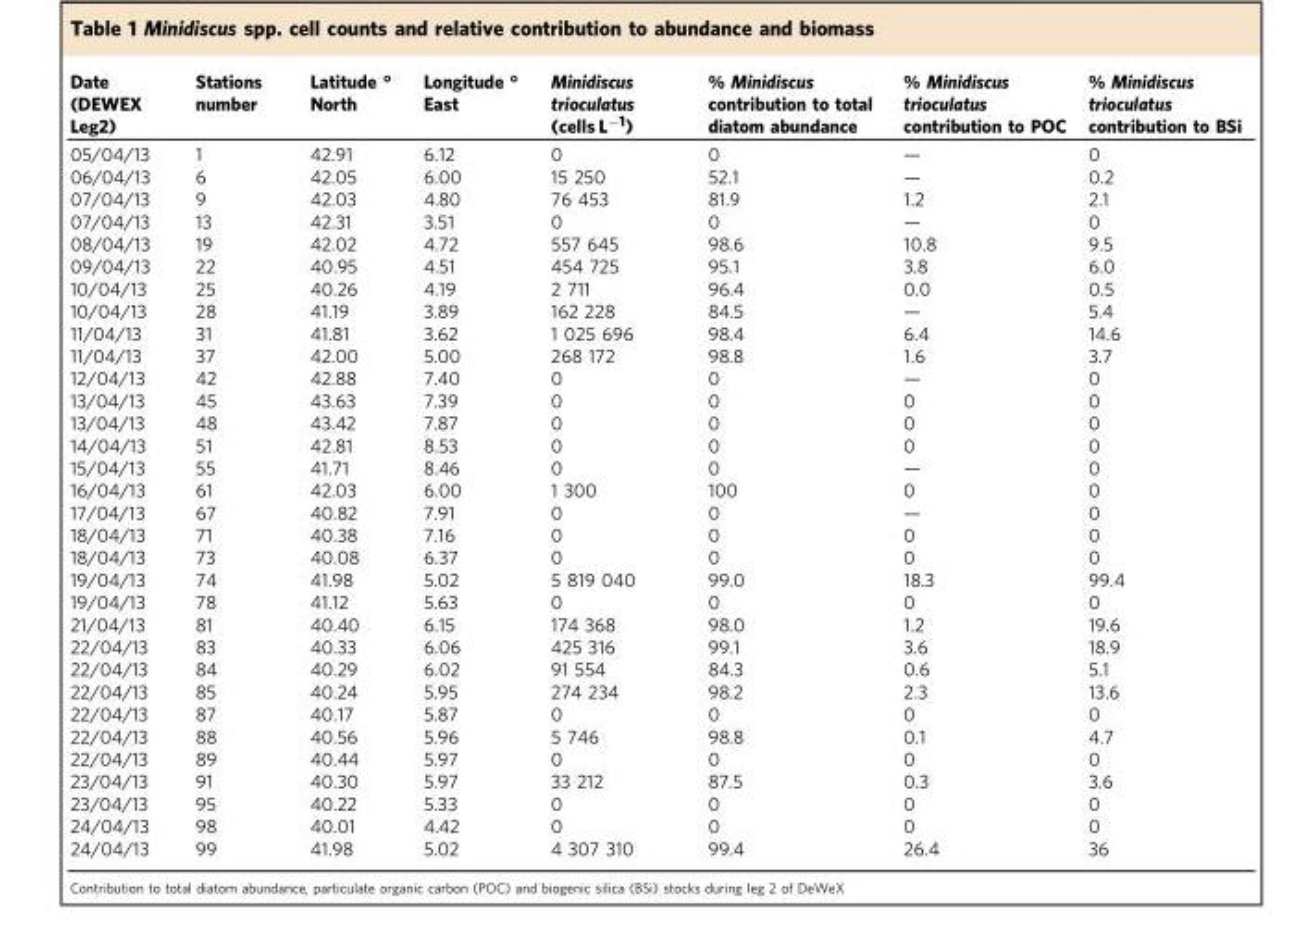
<table><thead><tr><td>Date (DEWEX Leg2)</td><td>Stations number</td><td>Latitude ° North</td><td>Longitude ° East</td><td>Minidiscus trioculatus (cells L<sup>−1</sup>)</td><td>% Minidiscus contribution to total diatom abundance</td><td>% Minidiscus trioculatus contribution to POC</td><td>% Minidiscus trioculatus contribution to BSi</td></tr></thead><tbody><tr><td>05/04/13</td><td>1</td><td>42.91</td><td>6.12</td><td>0</td><td>0</td><td>—</td><td>0</td></tr><tr><td>06/04/13</td><td>6</td><td>42.05</td><td>6.00</td><td>15 250</td><td>52.1</td><td>—</td><td>0.2</td></tr><tr><td>07/04/13</td><td>9</td><td>42.03</td><td>4.80</td><td>76 453</td><td>81.9</td><td>1.2</td><td>2.1</td></tr><tr><td>07/04/13</td><td>13</td><td>42.31</td><td>3.51</td><td>0</td><td>0</td><td>—</td><td>0</td></tr><tr><td>08/04/13</td><td>19</td><td>42.02</td><td>4.72</td><td>557 645</td><td>98.6</td><td>10.8</td><td>9.5</td></tr><tr><td>09/04/13</td><td>22</td><td>40.95</td><td>4.51</td><td>454 725</td><td>95.1</td><td>3.8</td><td>6.0</td></tr><tr><td>10/04/13</td><td>25</td><td>40.26</td><td>4.19</td><td>2 711</td><td>96.4</td><td>0.0</td><td>0.5</td></tr><tr><td>10/04/13</td><td>28</td><td>41.19</td><td>3.89</td><td>162 228</td><td>84.5</td><td>—</td><td>5.4</td></tr><tr><td>11/04/13</td><td>31</td><td>41.81</td><td>3.62</td><td>1 025 696</td><td>98.4</td><td>6.4</td><td>14.6</td></tr><tr><td>11/04/13</td><td>37</td><td>42.00</td><td>5.00</td><td>268 172</td><td>98.8</td><td>1.6</td><td>3.7</td></tr><tr><td>12/04/13</td><td>42</td><td>42.88</td><td>7.40</td><td>0</td><td>0</td><td>—</td><td>0</td></tr><tr><td>13/04/13</td><td>45</td><td>43.63</td><td>7.39</td><td>0</td><td>0</td><td>0</td><td>0</td></tr><tr><td>13/04/13</td><td>48</td><td>43.42</td><td>7.87</td><td>0</td><td>0</td><td>0</td><td>0</td></tr><tr><td>14/04/13</td><td>51</td><td>42.81</td><td>8.53</td><td>0</td><td>0</td><td>0</td><td>0</td></tr><tr><td>15/04/13</td><td>55</td><td>41.71</td><td>8.46</td><td>0</td><td>0</td><td>—</td><td>0</td></tr><tr><td>16/04/13</td><td>61</td><td>42.03</td><td>6.00</td><td>1 300</td><td>100</td><td>0</td><td>0</td></tr><tr><td>17/04/13</td><td>67</td><td>40.82</td><td>7.91</td><td>0</td><td>0</td><td>—</td><td>0</td></tr><tr><td>18/04/13</td><td>71</td><td>40.38</td><td>7.16</td><td>0</td><td>0</td><td>0</td><td>0</td></tr><tr><td>18/04/13</td><td>73</td><td>40.08</td><td>6.37</td><td>0</td><td>0</td><td>0</td><td>0</td></tr><tr><td>19/04/13</td><td>74</td><td>41.98</td><td>5.02</td><td>5 819 040</td><td>99.0</td><td>18.3</td><td>99.4</td></tr><tr><td>19/04/13</td><td>78</td><td>41.12</td><td>5.63</td><td>0</td><td>0</td><td>0</td><td>0</td></tr><tr><td>21/04/13</td><td>81</td><td>40.40</td><td>6.15</td><td>174 368</td><td>98.0</td><td>1.2</td><td>19.6</td></tr><tr><td>22/04/13</td><td>83</td><td>40.33</td><td>6.06</td><td>425 316</td><td>99.1</td><td>3.6</td><td>18.9</td></tr><tr><td>22/04/13</td><td>84</td><td>40.29</td><td>6.02</td><td>91 554</td><td>84.3</td><td>0.6</td><td>5.1</td></tr><tr><td>22/04/13</td><td>85</td><td>40.24</td><td>5.95</td><td>274 234</td><td>98.2</td><td>2.3</td><td>13.6</td></tr><tr><td>22/04/13</td><td>87</td><td>40.17</td><td>5.87</td><td>0</td><td>0</td><td>0</td><td>0</td></tr><tr><td>22/04/13</td><td>88</td><td>40.56</td><td>5.96</td><td>5 746</td><td>98.8</td><td>0.1</td><td>4.7</td></tr><tr><td>22/04/13</td><td>89</td><td>40.44</td><td>5.97</td><td>0</td><td>0</td><td>0</td><td>0</td></tr><tr><td>23/04/13</td><td>91</td><td>40.30</td><td>5.97</td><td>33 212</td><td>87.5</td><td>0.3</td><td>3.6</td></tr><tr><td>23/04/13</td><td>95</td><td>40.22</td><td>5.33</td><td>0</td><td>0</td><td>0</td><td>0</td></tr><tr><td>24/04/13</td><td>98</td><td>40.01</td><td>4.42</td><td>0</td><td>0</td><td>0</td><td>0</td></tr><tr><td>24/04/13</td><td>99</td><td>41.98</td><td>5.02</td><td>4 307 310</td><td>99.4</td><td>26.4</td><td>36</td></tr></tbody></table>